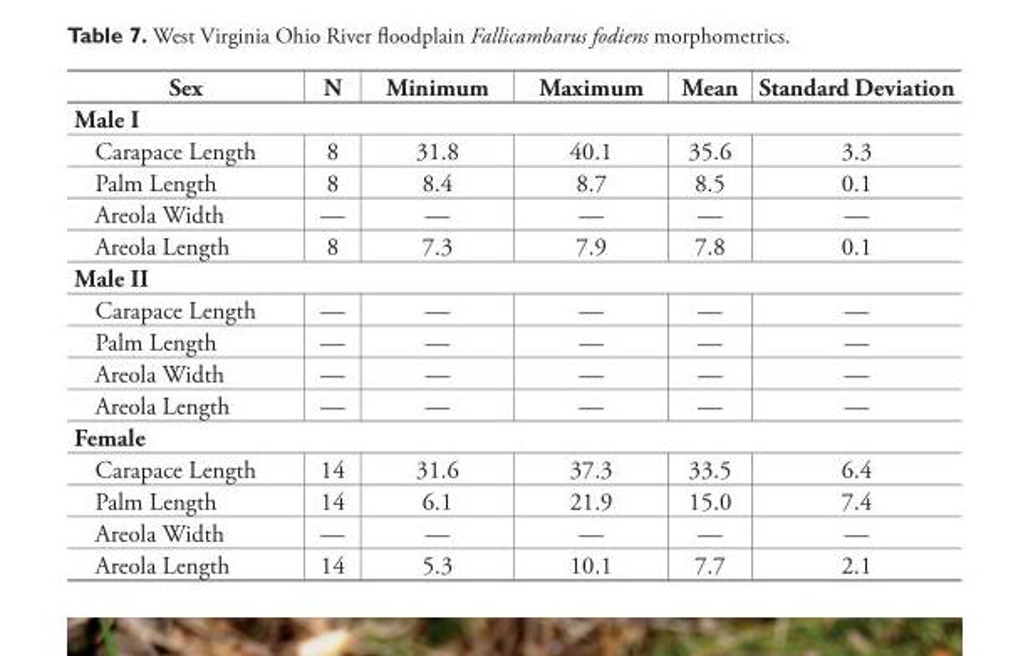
<table><thead><tr><td>Sex</td><td>N</td><td>Minimum</td><td>Maximum</td><td>Mean</td><td>Standard Deviation</td></tr></thead><tbody><tr><td colspan="6">Male I</td></tr><tr><td>Carapace Length</td><td>8</td><td>31.8</td><td>40.1</td><td>35.6</td><td>3.3</td></tr><tr><td>Palm Length</td><td>8</td><td>8.4</td><td>8.7</td><td>8.5</td><td>0.1</td></tr><tr><td>Areola Width</td><td>—</td><td>—</td><td>—</td><td>—</td><td>—</td></tr><tr><td>Areola Length</td><td>8</td><td>7.3</td><td>7.9</td><td>7.8</td><td>0.1</td></tr><tr><td colspan="6">Male II</td></tr><tr><td>Carapace Length</td><td>—</td><td>—</td><td>—</td><td>—</td><td>—</td></tr><tr><td>Palm Length</td><td>—</td><td>—</td><td>—</td><td>—</td><td>—</td></tr><tr><td>Areola Width</td><td>—</td><td>—</td><td>—</td><td>—</td><td>—</td></tr><tr><td>Areola Length</td><td>—</td><td>—</td><td>—</td><td>—</td><td>—</td></tr><tr><td colspan="6">Female</td></tr><tr><td>Carapace Length</td><td>14</td><td>31.6</td><td>37.3</td><td>33.5</td><td>6.4</td></tr><tr><td>Palm Length</td><td>14</td><td>6.1</td><td>21.9</td><td>15.0</td><td>7.4</td></tr><tr><td>Areola Width</td><td>—</td><td>—</td><td>—</td><td>—</td><td>—</td></tr><tr><td>Areola Length</td><td>14</td><td>5.3</td><td>10.1</td><td>7.7</td><td>2.1</td></tr></tbody></table>